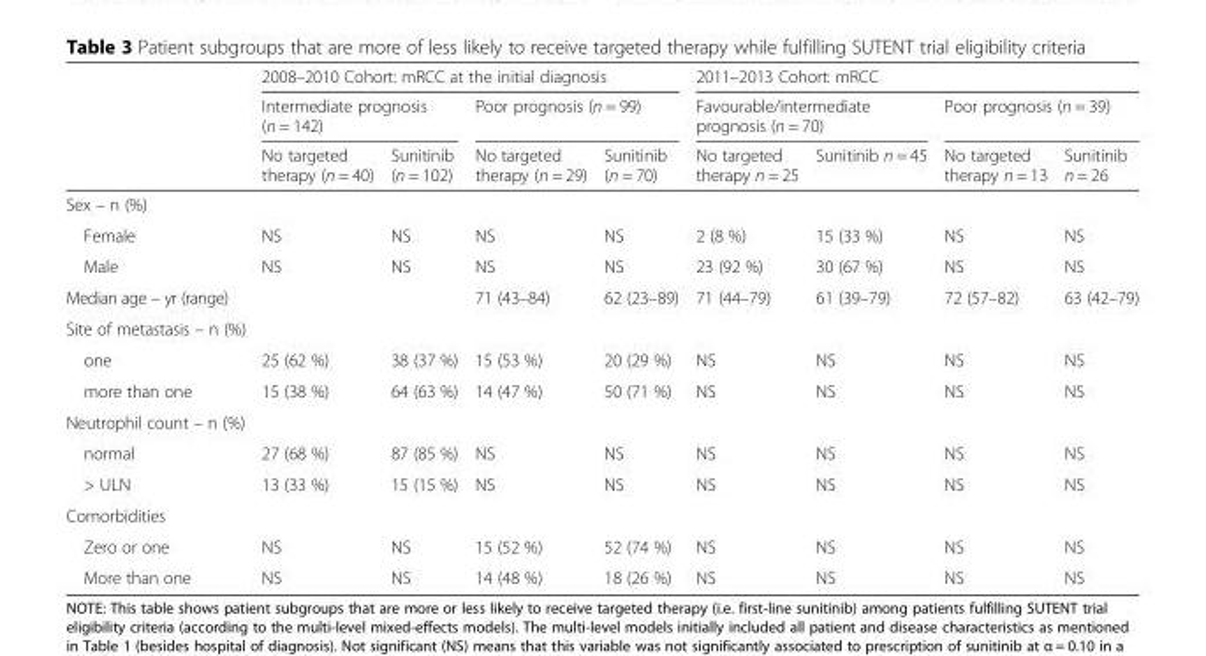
<table><thead><tr><td rowspan="3"></td><td colspan="4">2008–2010 Cohort: mRCC at the initial diagnosis</td><td colspan="4">2011–2013 Cohort: mRCC</td></tr><tr><td colspan="2">Intermediate prognosis (n = 142)</td><td colspan="2">Poor prognosis (n = 99)</td><td colspan="2">Favourable/intermediate prognosis (n = 70)</td><td colspan="2">Poor prognosis (n = 39)</td></tr><tr><td>No targeted therapy (n = 40)</td><td>Sunitinib (n = 102)</td><td>No targeted therapy (n = 29)</td><td>Sunitinib (n = 70)</td><td>No targeted therapy n = 25</td><td>Sunitinib n = 45</td><td>No targeted therapy n = 13</td><td>Sunitinib n = 26</td></tr></thead><tbody><tr><td colspan="9">Sex – n (%)</td></tr><tr><td>Female</td><td>NS</td><td>NS</td><td>NS</td><td>NS</td><td>2 (8 %)</td><td>15 (33 %)</td><td>NS</td><td>NS</td></tr><tr><td>Male</td><td>NS</td><td>NS</td><td>NS</td><td>NS</td><td>23 (92 %)</td><td>30 (67 %)</td><td>NS</td><td>NS</td></tr><tr><td>Median age – yr (range)</td><td></td><td></td><td>71 (43–84)</td><td>62 (23–89)</td><td>71 (44–79)</td><td>61 (39–79)</td><td>72 (57–82)</td><td>63 (42–79)</td></tr><tr><td colspan="9">Site of metastasis – n (%)</td></tr><tr><td>one</td><td>25 (62 %)</td><td>38 (37 %)</td><td>15 (53 %)</td><td>20 (29 %)</td><td>NS</td><td>NS</td><td>NS</td><td>NS</td></tr><tr><td>more than one</td><td>15 (38 %)</td><td>64 (63 %)</td><td>14 (47 %)</td><td>50 (71 %)</td><td>NS</td><td>NS</td><td>NS</td><td>NS</td></tr><tr><td colspan="9">Neutrophil count – n (%)</td></tr><tr><td>normal</td><td>27 (68 %)</td><td>87 (85 %)</td><td>NS</td><td>NS</td><td>NS</td><td>NS</td><td>NS</td><td>NS</td></tr><tr><td>&gt; ULN</td><td>13 (33 %)</td><td>15 (15 %)</td><td>NS</td><td>NS</td><td>NS</td><td>NS</td><td>NS</td><td>NS</td></tr><tr><td colspan="9">Comorbidities</td></tr><tr><td>Zero or one</td><td>NS</td><td>NS</td><td>15 (52 %)</td><td>52 (74 %)</td><td>NS</td><td>NS</td><td>NS</td><td>NS</td></tr><tr><td>More than one</td><td>NS</td><td>NS</td><td>14 (48 %)</td><td>18 (26 %)</td><td>NS</td><td>NS</td><td>NS</td><td>NS</td></tr></tbody></table>